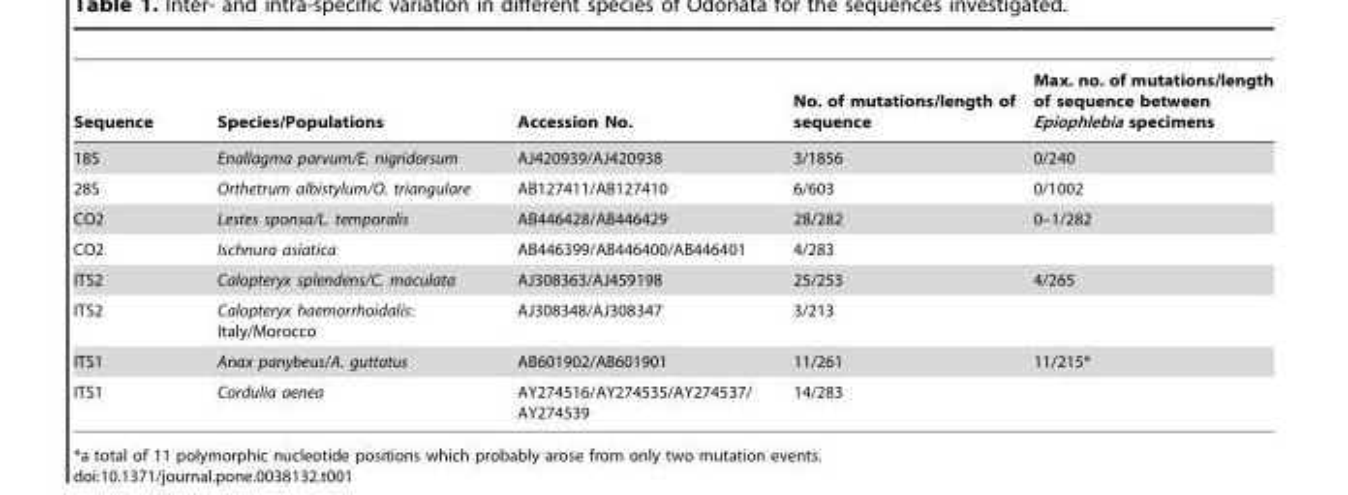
<table><thead><tr><td>Sequence</td><td>Species/Populations</td><td>Accession No.</td><td>No. of mutations/length of sequence</td><td>Max. no. of mutations/length of sequence between Epiophlebia specimens</td></tr></thead><tbody><tr><td>18S</td><td>Enallagma parvum/E. nigridorsum</td><td>AJ420939/AJ420938</td><td>3/1856</td><td>0/240</td></tr><tr><td>28S</td><td>Orthetrum albistylum/O. triangulare</td><td>AB127411/AB127410</td><td>6/603</td><td>0/1002</td></tr><tr><td>CO2</td><td>Lestes sponsa/L. temporalis</td><td>AB446428/AB446429</td><td>28/282</td><td>0–1/282</td></tr><tr><td>CO2</td><td>Ischnura asiatica</td><td>AB446399/AB446400/AB446401</td><td>4/283</td><td></td></tr><tr><td>ITS2</td><td>Calopteryx splendens/C. maculata</td><td>AJ308363/AJ459198</td><td>25/253</td><td>4/265</td></tr><tr><td>ITS2</td><td>Calopteryx haemorrhoidalis: Italy/Morocco</td><td>AJ308348/AJ308347</td><td>3/213</td><td></td></tr><tr><td>ITS1</td><td>Anax panybeus/A. guttatus</td><td>AB601902/AB601901</td><td>11/261</td><td>11/215*</td></tr><tr><td>ITS1</td><td>Cordulia aenea</td><td>AY274516/AY274535/AY274537/ AY274539</td><td>14/283</td><td></td></tr></tbody></table>